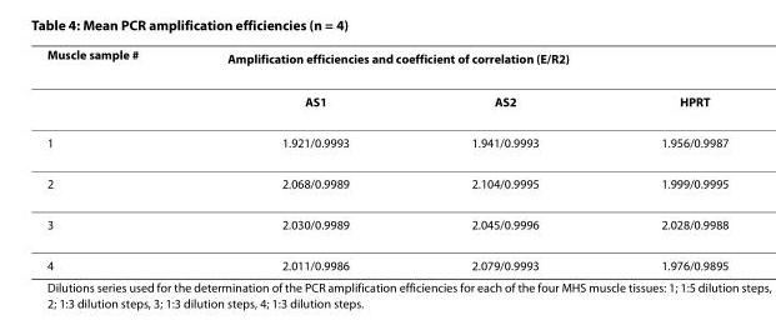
<table><thead><tr><td rowspan="2">Muscle sample #</td><td colspan="3">Amplification efficiencies and coefficient of correlation (E/R2)</td></tr><tr><td>AS1</td><td>AS2</td><td>HPRT</td></tr></thead><tbody><tr><td>1</td><td>1.921/0.9993</td><td>1.941/0.9993</td><td>1.956/0.9987</td></tr><tr><td>2</td><td>2.068/0.9989</td><td>2.104/0.9995</td><td>1.999/0.9995</td></tr><tr><td>3</td><td>2.030/0.9989</td><td>2.045/0.9996</td><td>2.028/0.9988</td></tr><tr><td>4</td><td>2.011/0.9986</td><td>2.079/0.9993</td><td>1.976/0.9895</td></tr></tbody></table>